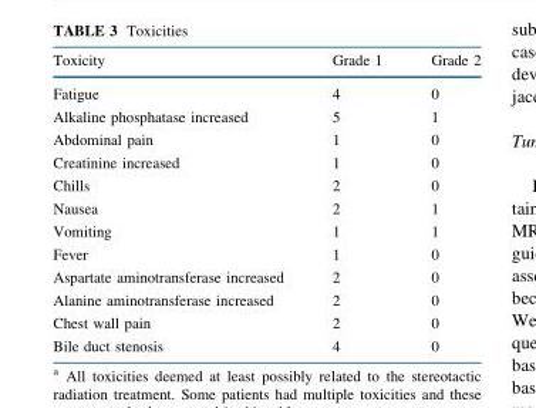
<table><thead><tr><td>Toxicity</td><td>Grade 1</td><td>Grade 2</td></tr></thead><tbody><tr><td>Fatigue</td><td>4</td><td>0</td></tr><tr><td>Alkaline phosphatase increased</td><td>5</td><td>1</td></tr><tr><td>Abdominal pain</td><td>1</td><td>0</td></tr><tr><td>Creatinine increased</td><td>1</td><td>0</td></tr><tr><td>Chills</td><td>2</td><td>0</td></tr><tr><td>Nausea</td><td>2</td><td>1</td></tr><tr><td>Vomiting</td><td>1</td><td>1</td></tr><tr><td>Fever</td><td>1</td><td>0</td></tr><tr><td>Aspartate aminotransferase increased</td><td>2</td><td>0</td></tr><tr><td>Alanine aminotransferase increased</td><td>2</td><td>0</td></tr><tr><td>Chest wall pain</td><td>2</td><td>0</td></tr><tr><td>Bile duct stenosis</td><td>4</td><td>0</td></tr></tbody></table>